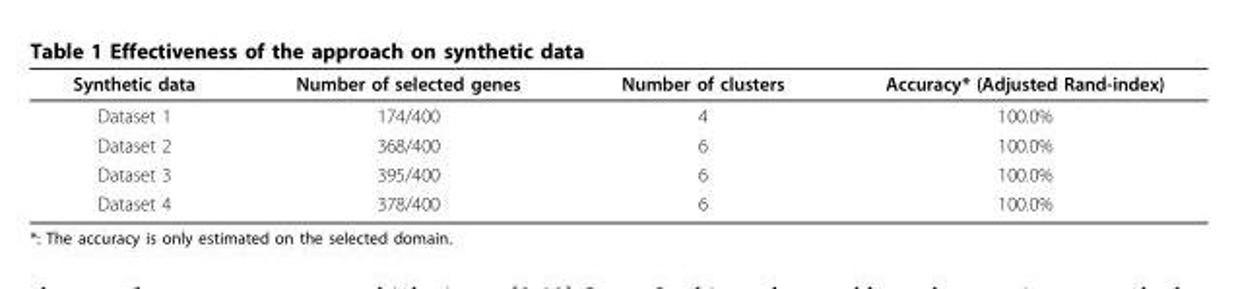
<table><thead><tr><td>Synthetic data</td><td>Number of selected genes</td><td>Number of clusters</td><td>Accuracy* (Adjusted Rand-index)</td></tr></thead><tbody><tr><td>Dataset 1</td><td>174/400</td><td>4</td><td>100.0%</td></tr><tr><td>Dataset 2</td><td>368/400</td><td>6</td><td>100.0%</td></tr><tr><td>Dataset 3</td><td>395/400</td><td>6</td><td>100.0%</td></tr><tr><td>Dataset 4</td><td>378/400</td><td>6</td><td>100.0%</td></tr></tbody></table>